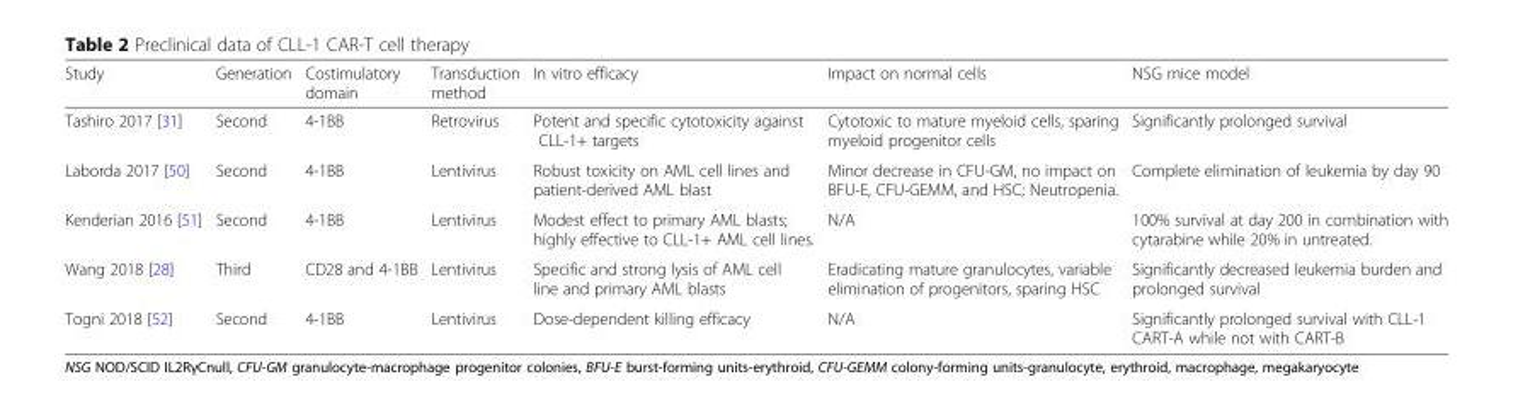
<table><thead><tr><td>Study</td><td>Generation</td><td>Costimulatory domain</td><td>Transduction method</td><td>In vitro efficacy</td><td>Impact on normal cells</td><td>NSG mice model</td></tr></thead><tbody><tr><td>Tashiro 2017 [31]</td><td>Second</td><td>4-1BB</td><td>Retrovirus</td><td>Potent and specific cytotoxicity against CLL-1+ targets</td><td>Cytotoxic to mature myeloid cells, sparing myeloid progenitor cells</td><td>Significantly prolonged survival</td></tr><tr><td>Laborda 2017 [50]</td><td>Second</td><td>4-1BB</td><td>Lentivirus</td><td>Robust toxicity on AML cell lines and patient-derived AML blast</td><td>Minor decrease in CFU-GM, no impact on BFU-E, CFU-GEMM, and HSC; Neutropenia.</td><td>Complete elimination of leukemia by day 90</td></tr><tr><td>Kenderian 2016 [51]</td><td>Second</td><td>4-1BB</td><td>Lentivirus</td><td>Modest effect to primary AML blasts; highly effective to CLL-1+ AML cell lines.</td><td>N/A</td><td>100% survival at day 200 in combination with cytarabine while 20% in untreated.</td></tr><tr><td>Wang 2018 [28]</td><td>Third</td><td>CD28 and 4-1BB</td><td>Lentivirus</td><td>Specific and strong lysis of AML cell line and primary AML blasts</td><td>Eradicating mature granulocytes, variable elimination of progenitors, sparing HSC</td><td>Significantly decreased leukemia burden and prolonged survival</td></tr><tr><td>Togni 2018 [52]</td><td>Second</td><td>4-1BB</td><td>Lentivirus</td><td>Dose-dependent killing efficacy</td><td>N/A</td><td>Significantly prolonged survival with CLL-1 CART-A while not with CART-B</td></tr></tbody></table>